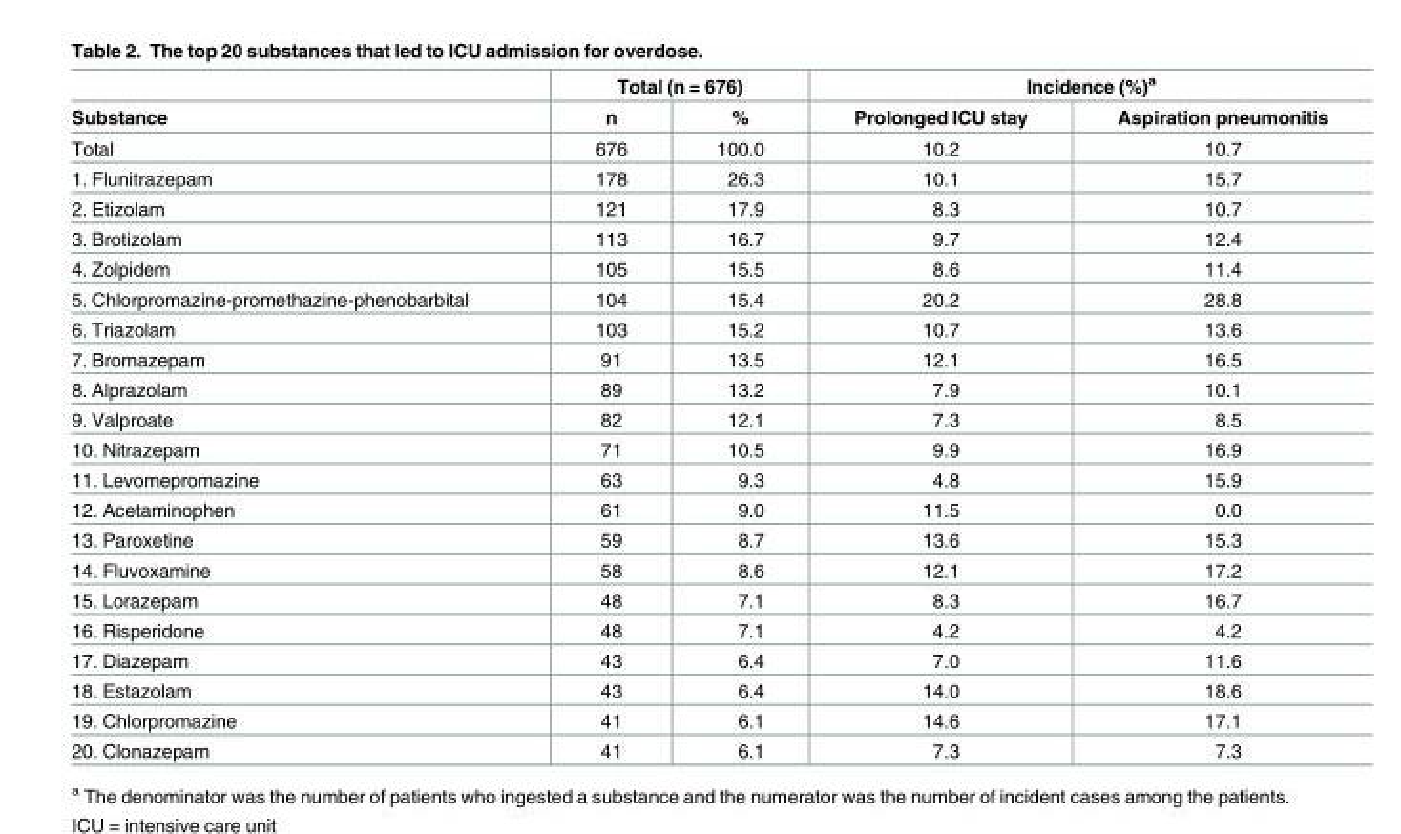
<table><thead><tr><td rowspan="2">Substance</td><td colspan="2">Total (n = 676)</td><td colspan="2">Incidence (%)<sup>a</sup></td></tr><tr><td>n</td><td>%</td><td>Prolonged ICU stay</td><td>Aspiration pneumonitis</td></tr></thead><tbody><tr><td>Total</td><td>676</td><td>100.0</td><td>10.2</td><td>10.7</td></tr><tr><td>1. Flunitrazepam</td><td>178</td><td>26.3</td><td>10.1</td><td>15.7</td></tr><tr><td>2. Etizolam</td><td>121</td><td>17.9</td><td>8.3</td><td>10.7</td></tr><tr><td>3. Brotizolam</td><td>113</td><td>16.7</td><td>9.7</td><td>12.4</td></tr><tr><td>4. Zolpidem</td><td>105</td><td>15.5</td><td>8.6</td><td>11.4</td></tr><tr><td>5. Chlorpromazine-promethazine-phenobarbital</td><td>104</td><td>15.4</td><td>20.2</td><td>28.8</td></tr><tr><td>6. Triazolam</td><td>103</td><td>15.2</td><td>10.7</td><td>13.6</td></tr><tr><td>7. Bromazepam</td><td>91</td><td>13.5</td><td>12.1</td><td>16.5</td></tr><tr><td>8. Alprazolam</td><td>89</td><td>13.2</td><td>7.9</td><td>10.1</td></tr><tr><td>9. Valproate</td><td>82</td><td>12.1</td><td>7.3</td><td>8.5</td></tr><tr><td>10. Nitrazepam</td><td>71</td><td>10.5</td><td>9.9</td><td>16.9</td></tr><tr><td>11. Levomepromazine</td><td>63</td><td>9.3</td><td>4.8</td><td>15.9</td></tr><tr><td>12. Acetaminophen</td><td>61</td><td>9.0</td><td>11.5</td><td>0.0</td></tr><tr><td>13. Paroxetine</td><td>59</td><td>8.7</td><td>13.6</td><td>15.3</td></tr><tr><td>14. Fluvoxamine</td><td>58</td><td>8.6</td><td>12.1</td><td>17.2</td></tr><tr><td>15. Lorazepam</td><td>48</td><td>7.1</td><td>8.3</td><td>16.7</td></tr><tr><td>16. Risperidone</td><td>48</td><td>7.1</td><td>4.2</td><td>4.2</td></tr><tr><td>17. Diazepam</td><td>43</td><td>6.4</td><td>7.0</td><td>11.6</td></tr><tr><td>18. Estazolam</td><td>43</td><td>6.4</td><td>14.0</td><td>18.6</td></tr><tr><td>19. Chlorpromazine</td><td>41</td><td>6.1</td><td>14.6</td><td>17.1</td></tr><tr><td>20. Clonazepam</td><td>41</td><td>6.1</td><td>7.3</td><td>7.3</td></tr></tbody></table>